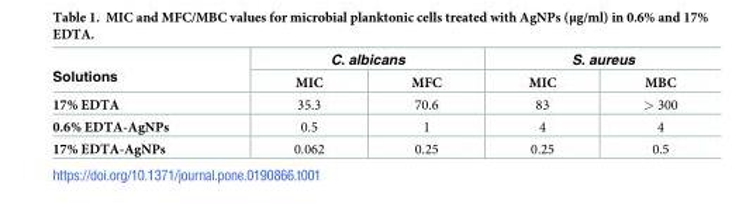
<table><thead><tr><td rowspan="2">Solutions</td><td colspan="2">C. albicans</td><td colspan="2">S. aureus</td></tr><tr><td>MIC</td><td>MFC</td><td>MIC</td><td>MBC</td></tr></thead><tbody><tr><td>17% EDTA</td><td>35.3</td><td>70.6</td><td>83</td><td>&gt; 300</td></tr><tr><td>0.6% EDTA-AgNPs</td><td>0.5</td><td>1</td><td>4</td><td>4</td></tr><tr><td>17% EDTA-AgNPs</td><td>0.062</td><td>0.25</td><td>0.25</td><td>0.5</td></tr></tbody></table>